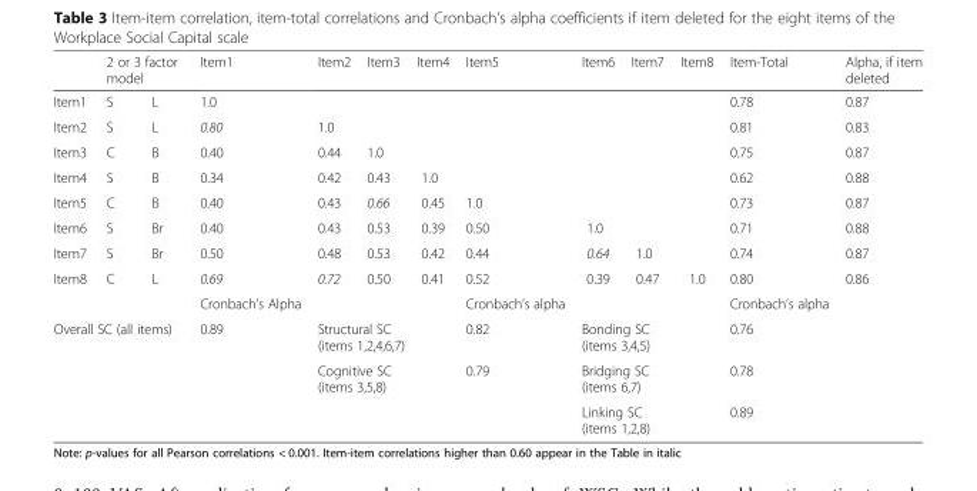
<table><thead><tr><td rowspan="2">Item1</td><td colspan="2">2 or 3 factor model</td><td rowspan="2">Item1 1.0</td><td rowspan="2">Item2</td><td rowspan="2">Item3</td><td rowspan="2">Item4</td><td rowspan="2">Item5</td><td rowspan="2">Item6</td><td rowspan="2">Item7</td><td rowspan="2">Item8</td><td rowspan="2">Item-Total 0.78</td><td rowspan="2">Alpha, if item deleted 0.87</td></tr><tr><td>S</td><td>L</td></tr></thead><tbody><tr><td>Item2</td><td>S</td><td>L</td><td>0.80</td><td>1.0</td><td></td><td></td><td></td><td></td><td></td><td></td><td>0.81</td><td>0.83</td></tr><tr><td>Item3</td><td>C</td><td>B</td><td>0.40</td><td>0.44</td><td>1.0</td><td></td><td></td><td></td><td></td><td></td><td>0.75</td><td>0.87</td></tr><tr><td>Item4</td><td>S</td><td>B</td><td>0.34</td><td>0.42</td><td>0.43</td><td>1.0</td><td></td><td></td><td></td><td></td><td>0.62</td><td>0.88</td></tr><tr><td>Item5</td><td>C</td><td>B</td><td>0.40</td><td>0.43</td><td>0.66</td><td>0.45</td><td>1.0</td><td></td><td></td><td></td><td>0.73</td><td>0.87</td></tr><tr><td>Item6</td><td>S</td><td>Br</td><td>0.40</td><td>0.43</td><td>0.53</td><td>0.39</td><td>0.50</td><td>1.0</td><td></td><td></td><td>0.71</td><td>0.88</td></tr><tr><td>Item7</td><td>S</td><td>Br</td><td>0.50</td><td>0.48</td><td>0.53</td><td>0.42</td><td>0.44</td><td>0.64</td><td>1.0</td><td></td><td>0.74</td><td>0.87</td></tr><tr><td>Item8</td><td>C</td><td>L</td><td>0.69</td><td>0.72</td><td>0.50</td><td>0.41</td><td>0.52</td><td>0.39</td><td>0.47</td><td>1.0</td><td>0.80</td><td>0.86</td></tr><tr><td colspan="3"></td><td>Cronbach’s Alpha</td><td></td><td></td><td></td><td>Cronbach’s alpha</td><td></td><td></td><td></td><td>Cronbach’s alpha</td><td></td></tr><tr><td rowspan="3" colspan="3">Overall SC (all items)</td><td>0.89</td><td colspan="3">Structural SC (items 1,2,4,6,7)</td><td>0.82</td><td colspan="3">Bonding SC (items 3,4,5)</td><td>0.76</td><td></td></tr><tr><td></td><td colspan="3">Cognitive SC (items 3,5,8)</td><td>0.79</td><td colspan="3">Bridging SC (items 6,7)</td><td>0.78</td><td></td></tr><tr><td></td><td colspan="3"></td><td></td><td colspan="3">Linking SC (items 1,2,8)</td><td>0.89</td><td></td></tr></tbody></table>